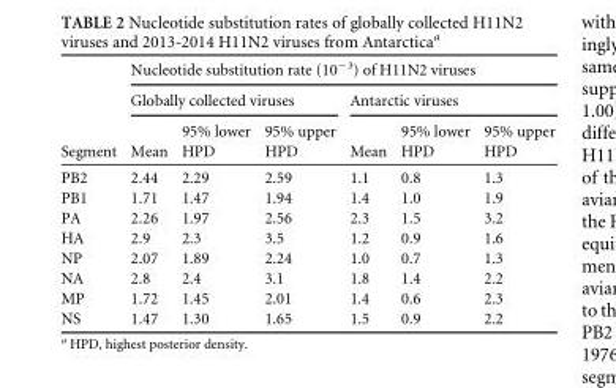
<table><thead><tr><td rowspan="3">Segment</td><td colspan="6">Nucleotide substitution rate (10<sup>−3</sup>) of H11N2 viruses</td></tr><tr><td colspan="3">Globally collected viruses</td><td colspan="3">Antarctic viruses</td></tr><tr><td>Mean</td><td>95% lower HPD</td><td>95% upper HPD</td><td>Mean</td><td>95% lower HPD</td><td>95% upper HPD</td></tr></thead><tbody><tr><td>PB2</td><td>2.44</td><td>2.29</td><td>2.59</td><td>1.1</td><td>0.8</td><td>1.3</td></tr><tr><td>PB1</td><td>1.71</td><td>1.47</td><td>1.94</td><td>1.4</td><td>1.0</td><td>1.9</td></tr><tr><td>PA</td><td>2.26</td><td>1.97</td><td>2.56</td><td>2.3</td><td>1.5</td><td>3.2</td></tr><tr><td>HA</td><td>2.9</td><td>2.3</td><td>3.5</td><td>1.2</td><td>0.9</td><td>1.6</td></tr><tr><td>NP</td><td>2.07</td><td>1.89</td><td>2.24</td><td>1.0</td><td>0.7</td><td>1.3</td></tr><tr><td>NA</td><td>2.8</td><td>2.4</td><td>3.1</td><td>1.8</td><td>1.4</td><td>2.2</td></tr><tr><td>MP</td><td>1.72</td><td>1.45</td><td>2.01</td><td>1.4</td><td>0.6</td><td>2.3</td></tr><tr><td>NS</td><td>1.47</td><td>1.30</td><td>1.65</td><td>1.5</td><td>0.9</td><td>2.2</td></tr></tbody></table>